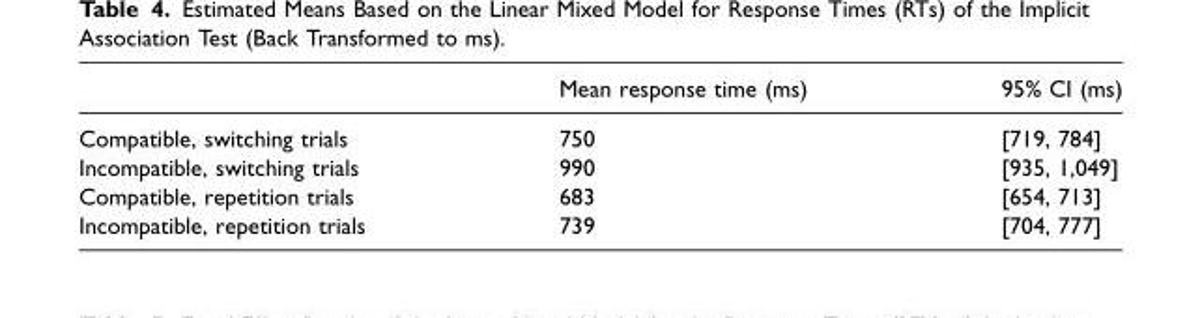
<table><thead><tr><td></td><td>Mean response time (ms)</td><td>95% CI (ms)</td></tr></thead><tbody><tr><td>Compatible, switching trials</td><td>750</td><td>[719, 784]</td></tr><tr><td>Incompatible, switching trials</td><td>990</td><td>[935, 1,049]</td></tr><tr><td>Compatible, repetition trials</td><td>683</td><td>[654, 713]</td></tr><tr><td>Incompatible, repetition trials</td><td>739</td><td>[704, 777]</td></tr></tbody></table>